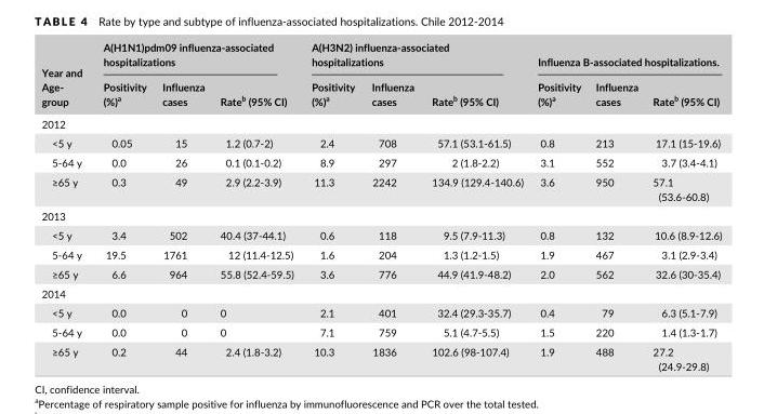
<table><thead><tr><td rowspan="2">Year and Age- group</td><td colspan="3">A(H1N1)pdm09 influenza- associated hospitalizations</td><td colspan="3">A(H3N2) influenza- associated hospitalizations</td><td colspan="3">Influenza B- associated hospitalizations.</td></tr><tr><td>Positivity (%)<sup>a</sup></td><td>Influenza cases</td><td>Rate<sup>b</sup> (95% CI)</td><td>Positivity (%)<sup>a</sup></td><td>Influenza cases</td><td>Rate<sup>b</sup> (95% CI)</td><td>Positivity (%)<sup>a</sup></td><td>Influenza cases</td><td>Rate<sup>b</sup> (95% CI)</td></tr></thead><tbody><tr><td colspan="10">2012</td></tr><tr><td>&lt;5 y</td><td>0.05</td><td>15</td><td>1.2 (0.7- 2)</td><td>2.4</td><td>708</td><td>57.1 (53.1- 61.5)</td><td>0.8</td><td>213</td><td>17.1 (15- 19.6)</td></tr><tr><td>5- 64 y</td><td>0.0</td><td>26</td><td>0.1 (0.1- 0.2)</td><td>8.9</td><td>297</td><td>2 (1.8- 2.2)</td><td>3.1</td><td>552</td><td>3.7 (3.4- 4.1)</td></tr><tr><td>≥65 y</td><td>0.3</td><td>49</td><td>2.9 (2.2- 3.9)</td><td>11.3</td><td>2242</td><td>134.9 (129.4- 140.6)</td><td>3.6</td><td>950</td><td>57.1 (53.6- 60.8)</td></tr><tr><td colspan="10">2013</td></tr><tr><td>&lt;5 y</td><td>3.4</td><td>502</td><td>40.4 (37- 44.1)</td><td>0.6</td><td>118</td><td>9.5 (7.9- 11.3)</td><td>0.8</td><td>132</td><td>10.6 (8.9- 12.6)</td></tr><tr><td>5- 64 y</td><td>19.5</td><td>1761</td><td>12 (11.4- 12.5)</td><td>1.6</td><td>204</td><td>1.3 (1.2- 1.5)</td><td>1.9</td><td>467</td><td>3.1 (2.9- 3.4)</td></tr><tr><td>≥65 y</td><td>6.6</td><td>964</td><td>55.8 (52.4- 59.5)</td><td>3.6</td><td>776</td><td>44.9 (41.9- 48.2)</td><td>2.0</td><td>562</td><td>32.6 (30- 35.4)</td></tr><tr><td colspan="10">2014</td></tr><tr><td>&lt;5 y</td><td>0.0</td><td>0</td><td>0</td><td>2.1</td><td>401</td><td>32.4 (29.3- 35.7)</td><td>0.4</td><td>79</td><td>6.3 (5.1- 7.9)</td></tr><tr><td>5- 64 y</td><td>0.0</td><td>0</td><td>0</td><td>7.1</td><td>759</td><td>5.1 (4.7- 5.5)</td><td>1.5</td><td>220</td><td>1.4 (1.3- 1.7)</td></tr><tr><td>≥65 y</td><td>0.2</td><td>44</td><td>2.4 (1.8- 3.2)</td><td>10.3</td><td>1836</td><td>102.6 (98- 107.4)</td><td>1.9</td><td>488</td><td>27.2 (24.9- 29.8)</td></tr></tbody></table>